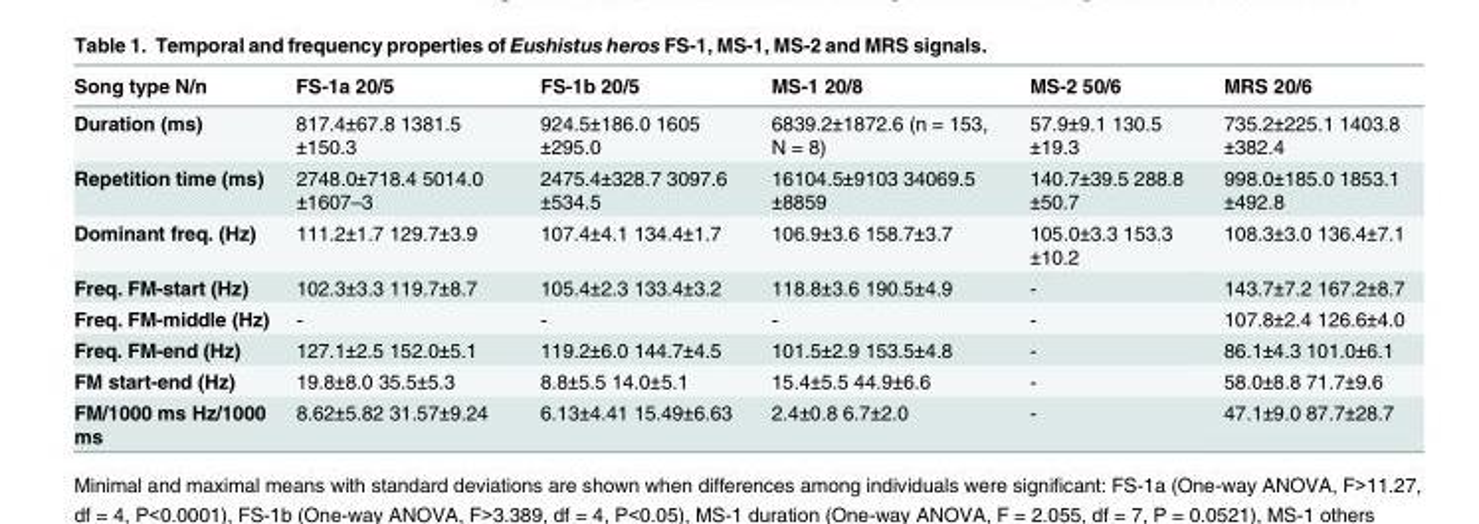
<table><thead><tr><td>Song type N/n</td><td>FS-1a 20/5</td><td>FS-1b 20/5</td><td>MS-1 20/8</td><td>MS-2 50/6</td><td>MRS 20/6</td></tr></thead><tbody><tr><td>Duration (ms)</td><td>817.4±67.8 1381.5 ±150.3</td><td>924.5±186.0 1605 ±295.0</td><td>6839.2±1872.6 (n = 153, N = 8)</td><td>57.9±9.1 130.5 ±19.3</td><td>735.2±225.1 1403.8 ±382.4</td></tr><tr><td>Repetition time (ms)</td><td>2748.0±718.4 5014.0 ±1607–3</td><td>2475.4±328.7 3097.6 ±534.5</td><td>16104.5±9103 34069.5 ±8859</td><td>140.7±39.5 288.8 ±50.7</td><td>998.0±185.0 1853.1 ±492.8</td></tr><tr><td>Dominant freq. (Hz)</td><td>111.2±1.7 129.7±3.9</td><td>107.4±4.1 134.4±1.7</td><td>106.9±3.6 158.7±3.7</td><td>105.0±3.3 153.3 ±10.2</td><td>108.3±3.0 136.4±7.1</td></tr><tr><td>Freq. FM-start (Hz)</td><td>102.3±3.3 119.7±8.7</td><td>105.4±2.3 133.4±3.2</td><td>118.8±3.6 190.5±4.9</td><td>-</td><td>143.7±7.2 167.2±8.7</td></tr><tr><td>Freq. FM-middle (Hz)</td><td>-</td><td>-</td><td>-</td><td>-</td><td>107.8±2.4 126.6±4.0</td></tr><tr><td>Freq. FM-end (Hz)</td><td>127.1±2.5 152.0±5.1</td><td>119.2±6.0 144.7±4.5</td><td>101.5±2.9 153.5±4.8</td><td>-</td><td>86.1±4.3 101.0±6.1</td></tr><tr><td>FM start-end (Hz)</td><td>19.8±8.0 35.5±5.3</td><td>8.8±5.5 14.0±5.1</td><td>15.4±5.5 44.9±6.6</td><td>-</td><td>58.0±8.8 71.7±9.6</td></tr><tr><td>FM/1000 ms Hz/1000 ms</td><td>8.62±5.82 31.57±9.24</td><td>6.13±4.41 15.49±6.63</td><td>2.4±0.8 6.7±2.0</td><td>-</td><td>47.1±9.0 87.7±28.7</td></tr></tbody></table>